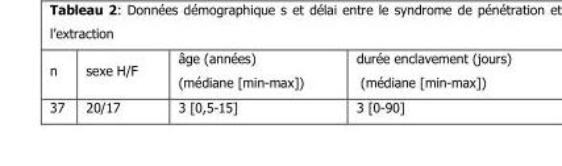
<table><thead><tr><td>n</td><td>sexe H/F</td><td>âge (années) (médiane [min-max])</td><td>durée enclavement (jours) (médiane [min-max])</td></tr></thead><tbody><tr><td>37</td><td>20/17</td><td>3 [0,5-15]</td><td>3 [0-90]</td></tr></tbody></table>